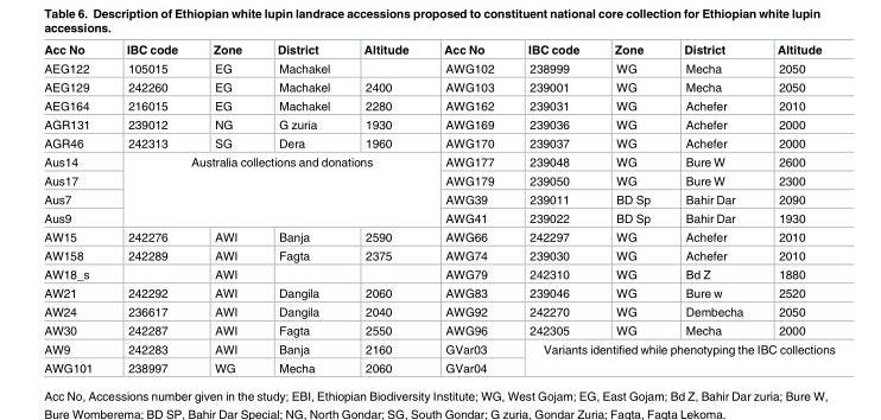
<table><thead><tr><td>Acc No</td><td>IBC code</td><td>Zone</td><td>District</td><td>Altitude</td><td>Acc No</td><td>IBC code</td><td>Zone</td><td>District</td><td>Altitude</td></tr></thead><tbody><tr><td>AEG122</td><td>105015</td><td>EG</td><td>Machakel</td><td></td><td>AWG102</td><td>238999</td><td>WG</td><td>Mecha</td><td>2050</td></tr><tr><td>AEG129</td><td>242260</td><td>EG</td><td>Machakel</td><td>2400</td><td>AWG103</td><td>239001</td><td>WG</td><td>Mecha</td><td>2050</td></tr><tr><td>AEG164</td><td>216015</td><td>EG</td><td>Machakel</td><td>2280</td><td>AWG162</td><td>239031</td><td>WG</td><td>Achefer</td><td>2010</td></tr><tr><td>AGR131</td><td>239012</td><td>NG</td><td>G zuria</td><td>1930</td><td>AWG169</td><td>239036</td><td>WG</td><td>Achefer</td><td>2000</td></tr><tr><td>AGR46</td><td>242313</td><td>SG</td><td>Dera</td><td>1960</td><td>AWG170</td><td>239037</td><td>WG</td><td>Achefer</td><td>2000</td></tr><tr><td>Aus14</td><td rowspan="4" colspan="4">Australia collections and donations</td><td>AWG177</td><td>239048</td><td>WG</td><td>Bure W</td><td>2600</td></tr><tr><td>Aus17</td><td>AWG179</td><td>239050</td><td>WG</td><td>Bure W</td><td>2300</td></tr><tr><td>Aus7</td><td>AWG39</td><td>239011</td><td>BD Sp</td><td>Bahir Dar</td><td>2090</td></tr><tr><td>Aus9</td><td>AWG41</td><td>239022</td><td>BD Sp</td><td>Bahir Dar</td><td>1930</td></tr><tr><td>AW15</td><td>242276</td><td>AWI</td><td>Banja</td><td>2590</td><td>AWG66</td><td>242297</td><td>WG</td><td>Achefer</td><td>2010</td></tr><tr><td>AW158</td><td>242289</td><td>AWI</td><td>Fagta</td><td>2375</td><td>AWG74</td><td>239030</td><td>WG</td><td>Achefer</td><td>2010</td></tr><tr><td>AW18_s</td><td></td><td>AWI</td><td></td><td></td><td>AWG79</td><td>242310</td><td>WG</td><td>Bd Z</td><td>1880</td></tr><tr><td>AW21</td><td>242292</td><td>AWI</td><td>Dangila</td><td>2060</td><td>AWG83</td><td>239046</td><td>WG</td><td>Bure w</td><td>2520</td></tr><tr><td>AW24</td><td>236617</td><td>AWI</td><td>Dangila</td><td>2040</td><td>AWG92</td><td>242270</td><td>WG</td><td>Dembecha</td><td>2050</td></tr><tr><td>AW30</td><td>242287</td><td>AWI</td><td>Fagta</td><td>2550</td><td>AWG96</td><td>242305</td><td>WG</td><td>Mecha</td><td>2000</td></tr><tr><td>AW9</td><td>242283</td><td>AWI</td><td>Banja</td><td>2160</td><td>GVar03</td><td rowspan="2" colspan="4">Variants identified while phenotyping the IBC collections</td></tr><tr><td>AWG101</td><td>238997</td><td>WG</td><td>Mecha</td><td>2060</td><td>GVar04</td></tr></tbody></table>